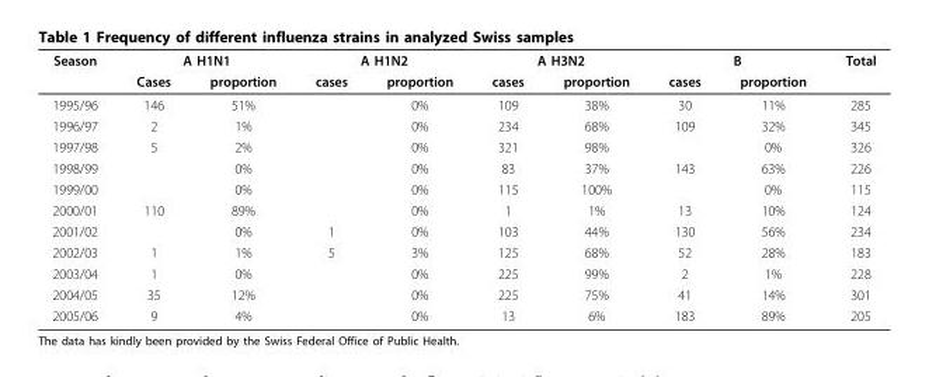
<table><thead><tr><td rowspan="2">Season</td><td colspan="2">A H1N1</td><td colspan="2">A H1N2</td><td colspan="2">A H3N2</td><td colspan="2">B</td><td rowspan="2">Total</td></tr><tr><td>Cases</td><td>proportion</td><td>cases</td><td>proportion</td><td>cases</td><td>proportion</td><td>cases</td><td>proportion</td></tr></thead><tbody><tr><td>1995/96</td><td>146</td><td>51%</td><td></td><td>0%</td><td>109</td><td>38%</td><td>30</td><td>11%</td><td>285</td></tr><tr><td>1996/97</td><td>2</td><td>1%</td><td></td><td>0%</td><td>234</td><td>68%</td><td>109</td><td>32%</td><td>345</td></tr><tr><td>1997/98</td><td>5</td><td>2%</td><td></td><td>0%</td><td>321</td><td>98%</td><td></td><td>0%</td><td>326</td></tr><tr><td>1998/99</td><td></td><td>0%</td><td></td><td>0%</td><td>83</td><td>37%</td><td>143</td><td>63%</td><td>226</td></tr><tr><td>1999/00</td><td></td><td>0%</td><td></td><td>0%</td><td>115</td><td>100%</td><td></td><td>0%</td><td>115</td></tr><tr><td>2000/01</td><td>110</td><td>89%</td><td></td><td>0%</td><td>1</td><td>1%</td><td>13</td><td>10%</td><td>124</td></tr><tr><td>2001/02</td><td></td><td>0%</td><td>1</td><td>0%</td><td>103</td><td>44%</td><td>130</td><td>56%</td><td>234</td></tr><tr><td>2002/03</td><td>1</td><td>1%</td><td>5</td><td>3%</td><td>125</td><td>68%</td><td>52</td><td>28%</td><td>183</td></tr><tr><td>2003/04</td><td>1</td><td>0%</td><td></td><td>0%</td><td>225</td><td>99%</td><td>2</td><td>1%</td><td>228</td></tr><tr><td>2004/05</td><td>35</td><td>12%</td><td></td><td>0%</td><td>225</td><td>75%</td><td>41</td><td>14%</td><td>301</td></tr><tr><td>2005/06</td><td>9</td><td>4%</td><td></td><td>0%</td><td>13</td><td>6%</td><td>183</td><td>89%</td><td>205</td></tr></tbody></table>